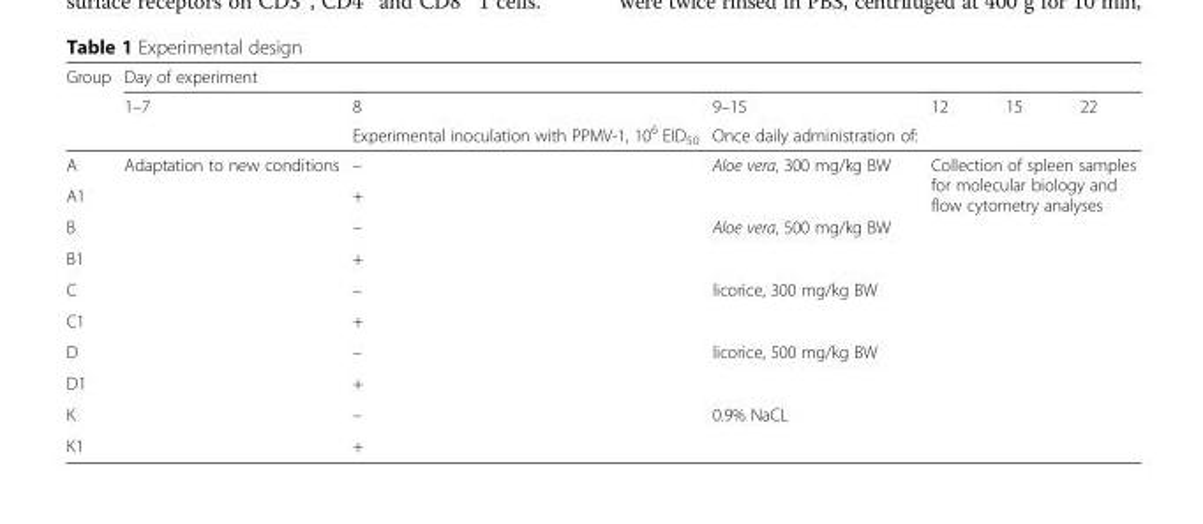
<table><thead><tr><td rowspan="3">Group</td><td colspan="6">Day of experiment</td></tr><tr><td rowspan="2">1–7</td><td rowspan="2">8 Experimental inoculation with PPMV-1, 10<sup>6</sup> EID<sub>50</sub></td><td rowspan="2">9–15 Once daily administration of:</td><td rowspan="2">12</td><td rowspan="2">15</td><td rowspan="2">22</td></tr><tr></tr></thead><tbody><tr><td>A</td><td rowspan="10">Adaptation to new conditions</td><td>–</td><td rowspan="2">Aloe vera, 300 mg/kg BW</td><td rowspan="10" colspan="3">Collection of spleen samples for molecular biology and flow cytometry analyses</td></tr><tr><td>A1</td><td>+</td></tr><tr><td>B</td><td>–</td><td rowspan="2">Aloe vera, 500 mg/kg BW</td></tr><tr><td>B1</td><td>+</td></tr><tr><td>C</td><td>–</td><td rowspan="2">licorice, 300 mg/kg BW</td></tr><tr><td>C1</td><td>+</td></tr><tr><td>D</td><td>–</td><td rowspan="2">licorice, 500 mg/kg BW</td></tr><tr><td>D1</td><td>+</td></tr><tr><td>K</td><td>–</td><td rowspan="2">0.9% NaCL</td></tr><tr><td>K1</td><td>+</td></tr></tbody></table>